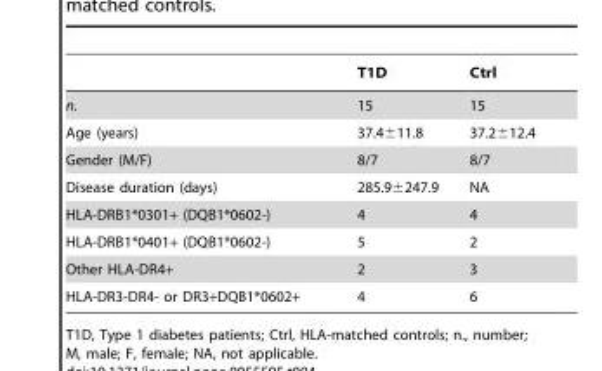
<table><thead><tr><td></td><td>T1D</td><td>Ctrl</td></tr></thead><tbody><tr><td>n.</td><td>15</td><td>15</td></tr><tr><td>Age (years)</td><td>37.4±11.8</td><td>37.2±12.4</td></tr><tr><td>Gender (M/F)</td><td>8/7</td><td>8/7</td></tr><tr><td>Disease duration (days)</td><td>285.9±247.9</td><td>NA</td></tr><tr><td>HLA-DRB1*0301+ (DQB1*0602-)</td><td>4</td><td>4</td></tr><tr><td>HLA-DRB1*0401+ (DQB1*0602-)</td><td>5</td><td>2</td></tr><tr><td>Other HLA-DR4+</td><td>2</td><td>3</td></tr><tr><td>HLA-DR3-DR4- or DR3+DQB1*0602+</td><td>4</td><td>6</td></tr></tbody></table>